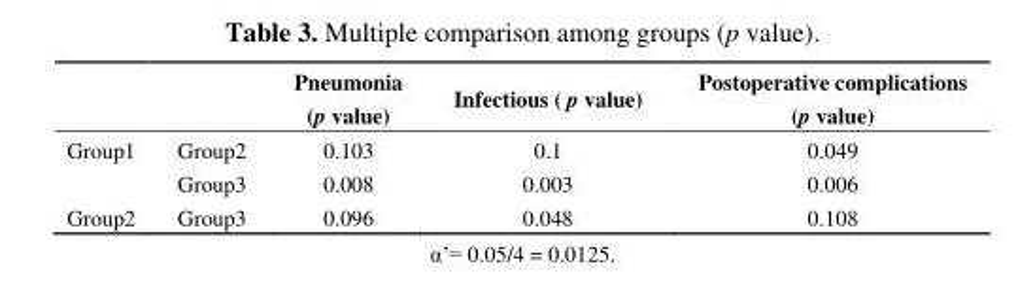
<table><thead><tr><td></td><td></td><td>Pneumonia (p value)</td><td>Infectious ( p value)</td><td>Postoperative complications (p value)</td></tr></thead><tbody><tr><td rowspan="2">Group1</td><td>Group2</td><td>0.103</td><td>0.1</td><td>0.049</td></tr><tr><td>Group3</td><td>0.008</td><td>0.003</td><td>0.006</td></tr><tr><td>Group2</td><td>Group3</td><td>0.096</td><td>0.048</td><td>0.108</td></tr></tbody></table>